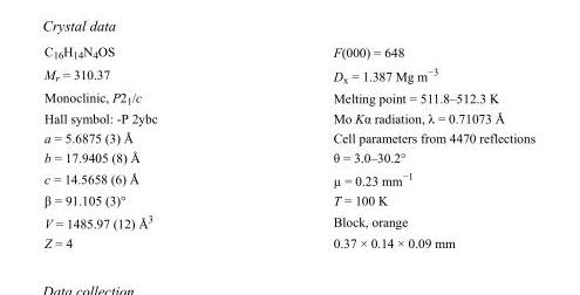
<table><tbody><tr><td>C<sub>16</sub>H<sub>14</sub>N<sub>4</sub>OS</td><td>F(000) = 648</td></tr><tr><td>M<sub>r</sub> = 310.37</td><td>D<sub>x</sub> = 1.387 Mg m<sup>−3</sup></td></tr><tr><td>Monoclinic, P2<sub>1</sub>/c</td><td>Melting point = 511.8–512.3 K</td></tr><tr><td>Hall symbol: -P 2ybc</td><td>Mo Kα radiation, λ = 0.71073 Å</td></tr><tr><td>a = 5.6875 (3) Å</td><td>Cell parameters from 4470 reflections</td></tr><tr><td>b = 17.9405 (8) Å</td><td>θ = 3.0–30.2°</td></tr><tr><td>c = 14.5658 (6) Å</td><td>µ = 0.23 mm<sup>−1</sup></td></tr><tr><td>β = 91.105 (3)°</td><td>T = 100 K</td></tr><tr><td>V = 1485.97 (12) Å<sup>3</sup></td><td>Block, orange</td></tr><tr><td>Z = 4</td><td>0.37 × 0.14 × 0.09 mm</td></tr></tbody></table>